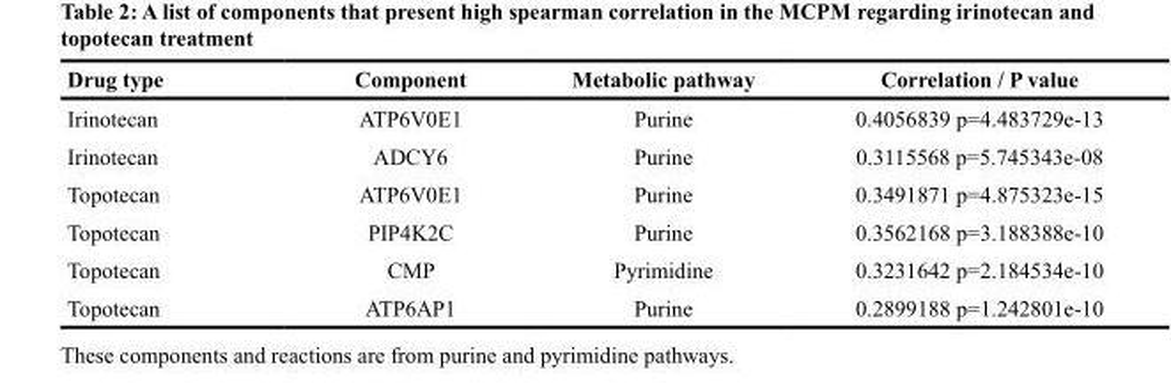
<table><thead><tr><td>Drug type</td><td>Component</td><td>Metabolic pathway</td><td>Correlation / P value</td></tr></thead><tbody><tr><td>Irinotecan</td><td>ATP6V0E1</td><td>Purine</td><td>0.4056839 p=4.483729e-13</td></tr><tr><td>Irinotecan</td><td>ADCY6</td><td>Purine</td><td>0.3115568 p=5.745343e-08</td></tr><tr><td>Topotecan</td><td>ATP6V0E1</td><td>Purine</td><td>0.3491871 p=4.875323e-15</td></tr><tr><td>Topotecan</td><td>PIP4K2C</td><td>Purine</td><td>0.3562168 p=3.188388e-10</td></tr><tr><td>Topotecan</td><td>CMP</td><td>Pyrimidine</td><td>0.3231642 p=2.184534e-10</td></tr><tr><td>Topotecan</td><td>ATP6AP1</td><td>Purine</td><td>0.2899188 p=1.242801e-10</td></tr></tbody></table>